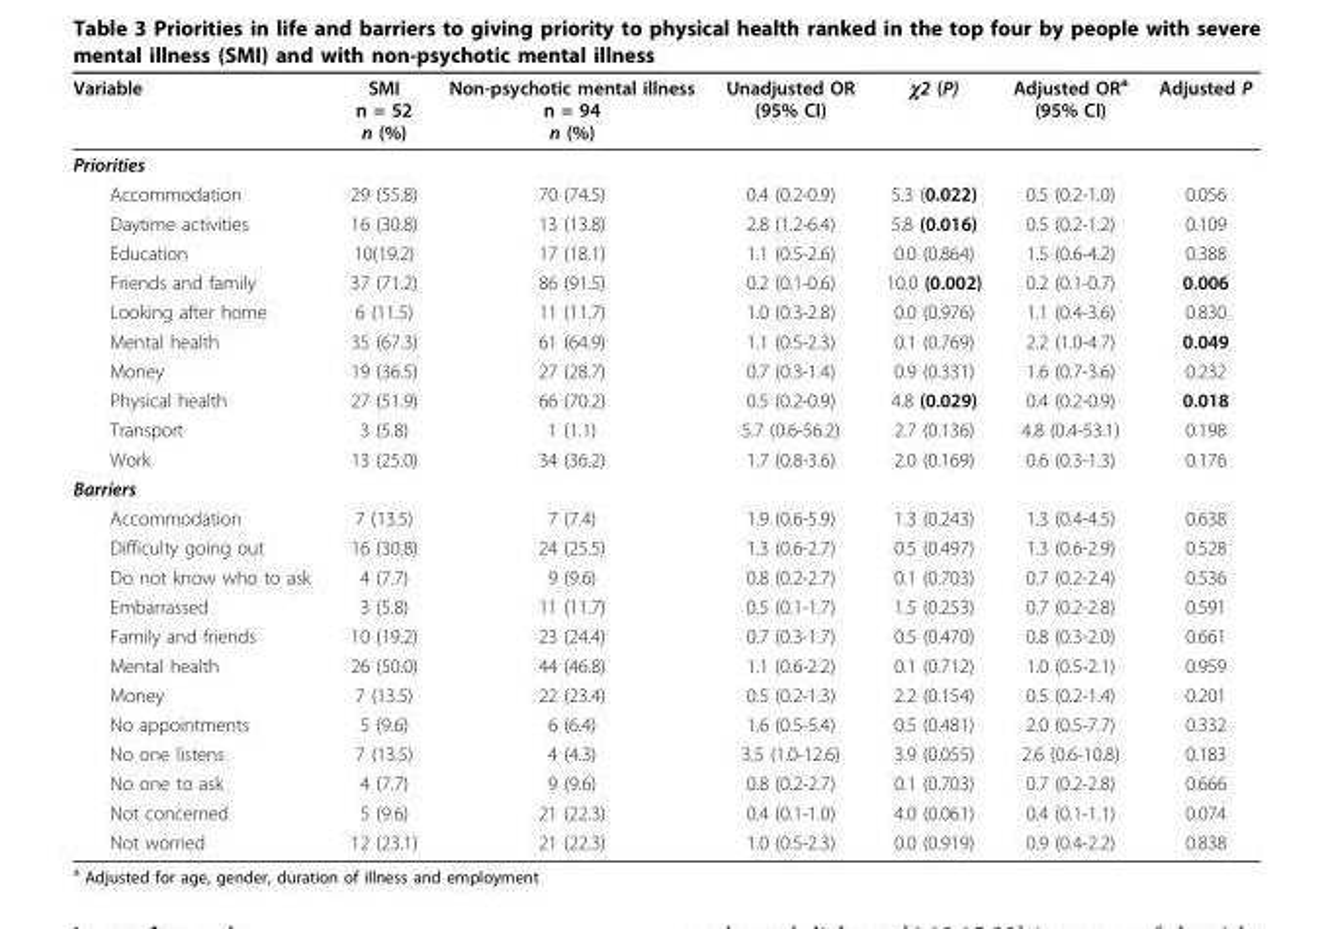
<table><thead><tr><td>Variable</td><td>SMI n = 52 n (%)</td><td>Non-psychotic mental illness n = 94 n (%)</td><td>Unadjusted OR (95% CI)</td><td>χ2 (P)</td><td>Adjusted OR<sup>a</sup> (95% CI)</td><td>Adjusted P</td></tr></thead><tbody><tr><td colspan="7">Priorities</td></tr><tr><td>Accommodation</td><td>29 (55.8)</td><td>70 (74.5)</td><td>0.4 (0.2-0.9)</td><td>5.3 (0.022)</td><td>0.5 (0.2-1.0)</td><td>0.056</td></tr><tr><td>Daytime activities</td><td>16 (30.8)</td><td>13 (13.8)</td><td>2.8 (1.2-6.4)</td><td>5.8 (0.016)</td><td>0.5 (0.2-1.2)</td><td>0.109</td></tr><tr><td>Education</td><td>10(19.2)</td><td>17 (18.1)</td><td>1.1 (0.5-2.6)</td><td>0.0 (0.864)</td><td>1.5 (0.6-4.2)</td><td>0.388</td></tr><tr><td>Friends and family</td><td>37 (71.2)</td><td>86 (91.5)</td><td>0.2 (0.1-0.6)</td><td>10.0 (0.002)</td><td>0.2 (0.1-0.7)</td><td>0.006</td></tr><tr><td>Looking after home</td><td>6 (11.5)</td><td>11 (11.7)</td><td>1.0 (0.3-2.8)</td><td>0.0 (0.976)</td><td>1.1 (0.4-3.6)</td><td>0.830</td></tr><tr><td>Mental health</td><td>35 (67.3)</td><td>61 (64.9)</td><td>1.1 (0.5-2.3)</td><td>0.1 (0.769)</td><td>2.2 (1.0-4.7)</td><td>0.049</td></tr><tr><td>Money</td><td>19 (36.5)</td><td>27 (28.7)</td><td>0.7 (0.3-1.4)</td><td>0.9 (0.331)</td><td>1.6 (0.7-3.6)</td><td>0.232</td></tr><tr><td>Physical health</td><td>27 (51.9)</td><td>66 (70.2)</td><td>0.5 (0.2-0.9)</td><td>4.8 (0.029)</td><td>0.4 (0.2-0.9)</td><td>0.018</td></tr><tr><td>Transport</td><td>3 (5.8)</td><td>1 (1.1)</td><td>5.7 (0.6-56.2)</td><td>2.7 (0.136)</td><td>4.8 (0.4-53.1)</td><td>0.198</td></tr><tr><td>Work</td><td>13 (25.0)</td><td>34 (36.2)</td><td>1.7 (0.8-3.6)</td><td>2.0 (0.169)</td><td>0.6 (0.3-1.3)</td><td>0.176</td></tr><tr><td colspan="7">Barriers</td></tr><tr><td>Accommodation</td><td>7 (13.5)</td><td>7 (7.4)</td><td>1.9 (0.6-5.9)</td><td>1.3 (0.243)</td><td>1.3 (0.4-4.5)</td><td>0.638</td></tr><tr><td>Difficulty going out</td><td>16 (30.8)</td><td>24 (25.5)</td><td>1.3 (0.6-2.7)</td><td>0.5 (0.497)</td><td>1.3 (0.6-2.9)</td><td>0.528</td></tr><tr><td>Do not know who to ask</td><td>4 (7.7)</td><td>9 (9.6)</td><td>0.8 (0.2-2.7)</td><td>0.1 (0.703)</td><td>0.7 (0.2-2.4)</td><td>0.536</td></tr><tr><td>Embarrassed</td><td>3 (5.8)</td><td>11 (11.7)</td><td>0.5 (0.1-1.7)</td><td>1.5 (0.253)</td><td>0.7 (0.2-2.8)</td><td>0.591</td></tr><tr><td>Family and friends</td><td>10 (19.2)</td><td>23 (24.4)</td><td>0.7 (0.3-1.7)</td><td>0.5 (0.470)</td><td>0.8 (0.3-2.0)</td><td>0.661</td></tr><tr><td>Mental health</td><td>26 (50.0)</td><td>44 (46.8)</td><td>1.1 (0.6-2.2)</td><td>0.1 (0.712)</td><td>1.0 (0.5-2.1)</td><td>0.959</td></tr><tr><td>Money</td><td>7 (13.5)</td><td>22 (23.4)</td><td>0.5 (0.2-1.3)</td><td>2.2 (0.154)</td><td>0.5 (0.2-1.4)</td><td>0.201</td></tr><tr><td>No appointments</td><td>5 (9.6)</td><td>6 (6.4)</td><td>1.6 (0.5-5.4)</td><td>0.5 (0.481)</td><td>2.0 (0.5-7.7)</td><td>0.332</td></tr><tr><td>No one listens</td><td>7 (13.5)</td><td>4 (4.3)</td><td>3.5 (1.0-12.6)</td><td>3.9 (0.055)</td><td>2.6 (0.6-10.8)</td><td>0.183</td></tr><tr><td>No one to ask</td><td>4 (7.7)</td><td>9 (9.6)</td><td>0.8 (0.2-2.7)</td><td>0.1 (0.703)</td><td>0.7 (0.2-2.8)</td><td>0.666</td></tr><tr><td>Not concerned</td><td>5 (9.6)</td><td>21 (22.3)</td><td>0.4 (0.1-1.0)</td><td>4.0 (0.061)</td><td>0.4 (0.1-1.1)</td><td>0.074</td></tr><tr><td>Not worried</td><td>12 (23.1)</td><td>21 (22.3)</td><td>1.0 (0.5-2.3)</td><td>0.0 (0.919)</td><td>0.9 (0.4-2.2)</td><td>0.838</td></tr></tbody></table>